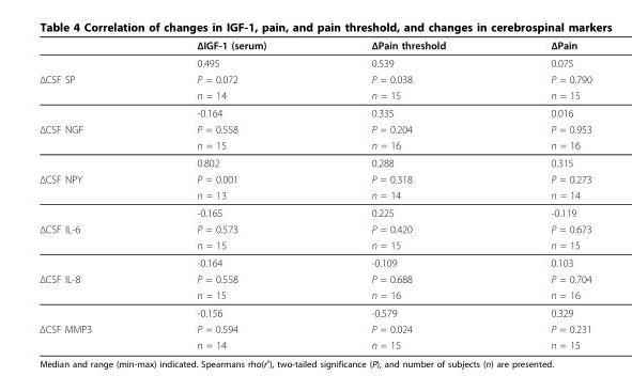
<table><thead><tr><td></td><td>ΔIGF-1 (serum)</td><td>ΔPain threshold</td><td>ΔPain</td></tr></thead><tbody><tr><td></td><td>0.495</td><td>0.539</td><td>0.075</td></tr><tr><td rowspan="3">ΔCSF SP</td><td>P = 0.072</td><td>P = 0.038</td><td>P = 0.790</td></tr><tr><td>n = 14</td><td>n = 15</td><td>n = 15</td></tr><tr><td>-0.164</td><td>0.335</td><td>0.016</td></tr><tr><td rowspan="3">ΔCSF NGF</td><td>P = 0.558</td><td>P = 0.204</td><td>P = 0.953</td></tr><tr><td>n = 15</td><td>n = 16</td><td>n = 16</td></tr><tr><td>0.802</td><td>0.288</td><td>0.315</td></tr><tr><td rowspan="3">ΔCSF NPY</td><td>P = 0.001</td><td>P = 0.318</td><td>P = 0.273</td></tr><tr><td>n = 13</td><td>n = 14</td><td>n = 14</td></tr><tr><td>-0.165</td><td>0.225</td><td>-0.119</td></tr><tr><td rowspan="3">ΔCSF IL-6</td><td>P = 0.573</td><td>P = 0.420</td><td>P = 0.673</td></tr><tr><td>n = 15</td><td>n = 15</td><td>n = 15</td></tr><tr><td>-0.164</td><td>-0.109</td><td>0.103</td></tr><tr><td rowspan="3">ΔCSF IL-8</td><td>P = 0.558</td><td>P = 0.688</td><td>P = 0.704</td></tr><tr><td>n = 15</td><td>n = 16</td><td>n = 16</td></tr><tr><td>-0.156</td><td>-0.579</td><td>0.329</td></tr><tr><td rowspan="2">ΔCSF MMP3</td><td>P = 0.594</td><td>P = 0.024</td><td>P = 0.231</td></tr><tr><td>n = 14</td><td>n = 15</td><td>n = 15</td></tr></tbody></table>